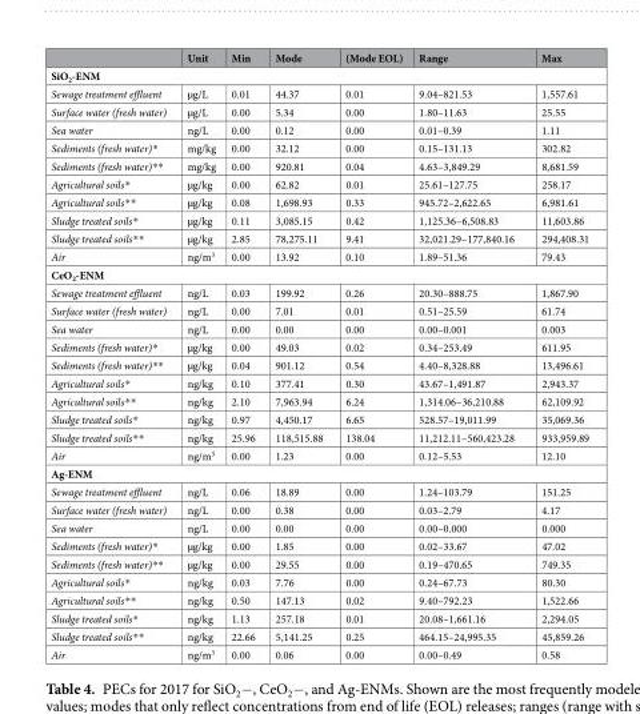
<table><thead><tr><td></td><td>Unit</td><td>Min</td><td>Mode</td><td>(Mode EOL)</td><td>Range</td><td>Max</td></tr></thead><tbody><tr><td colspan="7">SiO<sub>2</sub>-ENM</td></tr><tr><td>Sewage treatment effluent</td><td>µg/L</td><td>0.01</td><td>44.37</td><td>0.01</td><td>9.04–821.53</td><td>1,557.61</td></tr><tr><td>Surface water (fresh water)</td><td>µg/L</td><td>0.00</td><td>5.34</td><td>0.00</td><td>1.80–11.63</td><td>25.55</td></tr><tr><td>Sea water</td><td>ng/L</td><td>0.00</td><td>0.12</td><td>0.00</td><td>0.01–0.39</td><td>1.11</td></tr><tr><td>Sediments (fresh water)*</td><td>mg/kg</td><td>0.00</td><td>32.12</td><td>0.00</td><td>0.15–131.13</td><td>302.82</td></tr><tr><td>Sediments (fresh water)**</td><td>mg/kg</td><td>0.00</td><td>920.81</td><td>0.04</td><td>4.63–3,849.29</td><td>8,681.59</td></tr><tr><td>Agricultural soils*</td><td>µg/kg</td><td>0.00</td><td>62.82</td><td>0.01</td><td>25.61–127.75</td><td>258.17</td></tr><tr><td>Agricultural soils**</td><td>µg/kg</td><td>0.08</td><td>1,698.93</td><td>0.33</td><td>945.72–2,622.65</td><td>6,981.61</td></tr><tr><td>Sludge treated soils*</td><td>µg/kg</td><td>0.11</td><td>3,085.15</td><td>0.42</td><td>1,125.36–6,508.83</td><td>11,603.86</td></tr><tr><td>Sludge treated soils**</td><td>µg/kg</td><td>2.85</td><td>78,275.11</td><td>9.41</td><td>32,021.29–177,840.16</td><td>294,408.31</td></tr><tr><td>Air</td><td>ng/m<sup>3</sup></td><td>0.00</td><td>13.92</td><td>0.10</td><td>1.89–51.36</td><td>79.43</td></tr><tr><td colspan="7">CeO<sub>2</sub>-ENM</td></tr><tr><td>Sewage treatment effluent</td><td>ng/L</td><td>0.03</td><td>199.92</td><td>0.26</td><td>20.30–888.75</td><td>1,867.90</td></tr><tr><td>Surface water (fresh water)</td><td>ng/L</td><td>0.00</td><td>7.01</td><td>0.01</td><td>0.51–25.59</td><td>61.74</td></tr><tr><td>Sea water</td><td>ng/L</td><td>0.00</td><td>0.00</td><td>0.00</td><td>0.00–0.001</td><td>0.003</td></tr><tr><td>Sediments (fresh water)*</td><td>µg/kg</td><td>0.00</td><td>49.03</td><td>0.02</td><td>0.34–253.49</td><td>611.95</td></tr><tr><td>Sediments (fresh water)**</td><td>µg/kg</td><td>0.04</td><td>901.12</td><td>0.54</td><td>4.40–8,328.88</td><td>13,496.61</td></tr><tr><td>Agricultural soils*</td><td>ng/kg</td><td>0.10</td><td>377.41</td><td>0.30</td><td>43.67–1,491.87</td><td>2,943.37</td></tr><tr><td>Agricultural soils**</td><td>ng/kg</td><td>2.10</td><td>7,963.94</td><td>6.24</td><td>1,314.06–36,210.88</td><td>62,109.92</td></tr><tr><td>Sludge treated soils*</td><td>ng/kg</td><td>0.97</td><td>4,450.17</td><td>6.65</td><td>528.57–19,011.99</td><td>35,069.36</td></tr><tr><td>Sludge treated soils**</td><td>ng/kg</td><td>25.96</td><td>118,515.88</td><td>138.04</td><td>11,212.11–560,423.28</td><td>933,959.89</td></tr><tr><td>Air</td><td>ng/m<sup>3</sup></td><td>0.00</td><td>1.23</td><td>0.00</td><td>0.12–5.53</td><td>12.10</td></tr><tr><td colspan="7">Ag-ENM</td></tr><tr><td>Sewage treatment effluent</td><td>ng/L</td><td>0.06</td><td>18.89</td><td>0.00</td><td>1.24–103.79</td><td>151.25</td></tr><tr><td>Surface water (fresh water)</td><td>ng/L</td><td>0.00</td><td>0.38</td><td>0.00</td><td>0.03–2.79</td><td>4.17</td></tr><tr><td>Sea water</td><td>ng/L</td><td>0.00</td><td>0.00</td><td>0.00</td><td>0.00–0.000</td><td>0.000</td></tr><tr><td>Sediments (fresh water)*</td><td>µg/kg</td><td>0.00</td><td>1.85</td><td>0.00</td><td>0.02–33.67</td><td>47.02</td></tr><tr><td>Sediments (fresh water)**</td><td>µg/kg</td><td>0.00</td><td>29.55</td><td>0.00</td><td>0.19–470.65</td><td>749.35</td></tr><tr><td>Agricultural soils*</td><td>ng/kg</td><td>0.03</td><td>7.76</td><td>0.00</td><td>0.24–67.73</td><td>80.30</td></tr><tr><td>Agricultural soils**</td><td>ng/kg</td><td>0.50</td><td>147.13</td><td>0.02</td><td>9.40–792.23</td><td>1,522.66</td></tr><tr><td>Sludge treated soils*</td><td>ng/kg</td><td>1.13</td><td>257.18</td><td>0.01</td><td>20.08–1,661.16</td><td>2,294.05</td></tr><tr><td>Sludge treated soils**</td><td>ng/kg</td><td>22.66</td><td>5,141.25</td><td>0.25</td><td>464.15–24,995.35</td><td>45,859.26</td></tr><tr><td>Air</td><td>ng/m<sup>3</sup></td><td>0.00</td><td>0.06</td><td>0.00</td><td>0.00–0.49</td><td>0.58</td></tr></tbody></table>